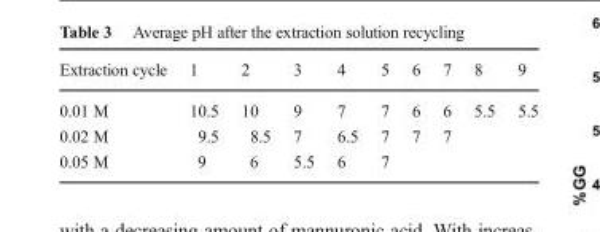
<table><thead><tr><td>Extraction cycle</td><td>1</td><td>2</td><td>3</td><td>4</td><td>5</td><td>6</td><td>7</td><td>8</td><td>9</td></tr></thead><tbody><tr><td>0.01 M</td><td>10.5</td><td>10</td><td>9</td><td>7</td><td>7</td><td>6</td><td>6</td><td>5.5</td><td>5.5</td></tr><tr><td>0.02 M</td><td>9.5</td><td>8.5</td><td>7</td><td>6.5</td><td>7</td><td>7</td><td>7</td><td></td><td></td></tr><tr><td>0.05 M</td><td>9</td><td>6</td><td>5.5</td><td>6</td><td>7</td><td></td><td></td><td></td><td></td></tr></tbody></table>